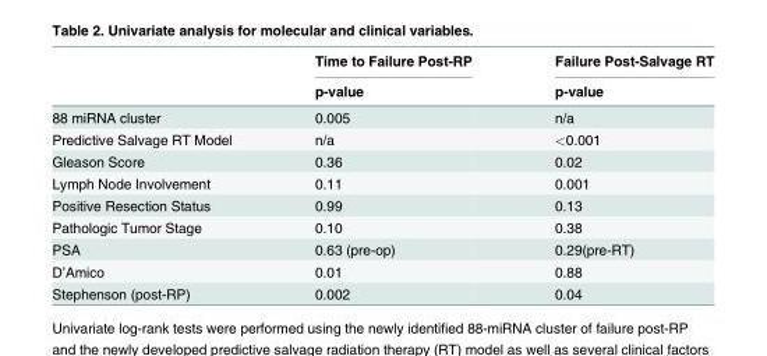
<table><thead><tr><td rowspan="2"></td><td rowspan="2">Time to Failure Post-RP p-value</td><td rowspan="2">Failure Post-Salvage RT p-value</td></tr><tr></tr></thead><tbody><tr><td>88 miRNA cluster</td><td>0.005</td><td>n/a</td></tr><tr><td>Predictive Salvage RT Model</td><td>n/a</td><td>&lt;0.001</td></tr><tr><td>Gleason Score</td><td>0.36</td><td>0.02</td></tr><tr><td>Lymph Node Involvement</td><td>0.11</td><td>0.001</td></tr><tr><td>Positive Resection Status</td><td>0.99</td><td>0.13</td></tr><tr><td>Pathologic Tumor Stage</td><td>0.10</td><td>0.38</td></tr><tr><td>PSA</td><td>0.63 (pre-op)</td><td>0.29(pre-RT)</td></tr><tr><td>D’Amico</td><td>0.01</td><td>0.88</td></tr><tr><td>Stephenson (post-RP)</td><td>0.002</td><td>0.04</td></tr></tbody></table>